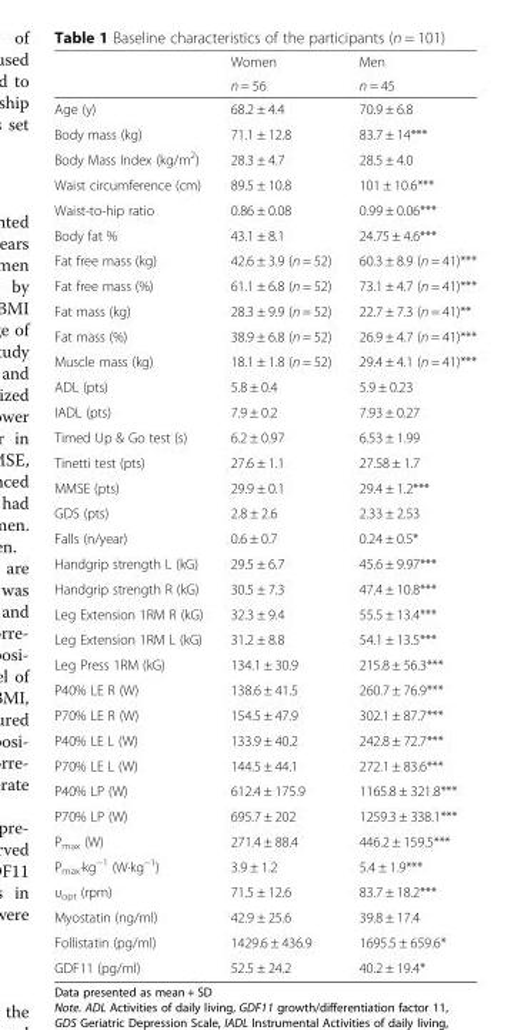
<table><thead><tr><td rowspan="2"></td><td rowspan="2">Women n = 56</td><td rowspan="2">Men n = 45</td></tr><tr></tr></thead><tbody><tr><td>Age (y)</td><td>68.2 ± 4.4</td><td>70.9 ± 6.8</td></tr><tr><td>Body mass (kg)</td><td>71.1 ± 12.8</td><td>83.7 ± 14***</td></tr><tr><td>Body Mass Index (kg/m<sup>2</sup>)</td><td>28.3 ± 4.7</td><td>28.5 ± 4.0</td></tr><tr><td>Waist circumference (cm)</td><td>89.5 ± 10.8</td><td>101 ± 10.6***</td></tr><tr><td>Waist-to-hip ratio</td><td>0.86 ± 0.08</td><td>0.99 ± 0.06***</td></tr><tr><td>Body fat %</td><td>43.1 ± 8.1</td><td>24.75 ± 4.6***</td></tr><tr><td>Fat free mass (kg)</td><td>42.6 ± 3.9 (n = 52)</td><td>60.3 ± 8.9 (n = 41)***</td></tr><tr><td>Fat free mass (%)</td><td>61.1 ± 6.8 (n = 52)</td><td>73.1 ± 4.7 (n = 41)***</td></tr><tr><td>Fat mass (kg)</td><td>28.3 ± 9.9 (n = 52)</td><td>22.7 ± 7.3 (n = 41)**</td></tr><tr><td>Fat mass (%)</td><td>38.9 ± 6.8 (n = 52)</td><td>26.9 ± 4.7 (n = 41)***</td></tr><tr><td>Muscle mass (kg)</td><td>18.1 ± 1.8 (n = 52)</td><td>29.4 ± 4.1 (n = 41)***</td></tr><tr><td>ADL (pts)</td><td>5.8 ± 0.4</td><td>5.9 ± 0.23</td></tr><tr><td>IADL (pts)</td><td>7.9 ± 0.2</td><td>7.93 ± 0.27</td></tr><tr><td>Timed Up &amp; Go test (s)</td><td>6.2 ± 0.97</td><td>6.53 ± 1.99</td></tr><tr><td>Tinetti test (pts)</td><td>27.6 ± 1.1</td><td>27.58 ± 1.7</td></tr><tr><td>MMSE (pts)</td><td>29.9 ± 0.1</td><td>29.4 ± 1.2***</td></tr><tr><td>GDS (pts)</td><td>2.8 ± 2.6</td><td>2.33 ± 2.53</td></tr><tr><td>Falls (n/year)</td><td>0.6 ± 0.7</td><td>0.24 ± 0.5*</td></tr><tr><td>Handgrip strength L (kG)</td><td>29.5 ± 6.7</td><td>45.6 ± 9.97***</td></tr><tr><td>Handgrip strength R (kG)</td><td>30.5 ± 7.3</td><td>47.4 ± 10.8***</td></tr><tr><td>Leg Extension 1RM R (kG)</td><td>32.3 ± 9.4</td><td>55.5 ± 13.4***</td></tr><tr><td>Leg Extension 1RM L (kG)</td><td>31.2 ± 8.8</td><td>54.1 ± 13.5***</td></tr><tr><td>Leg Press 1RM (kG)</td><td>134.1 ± 30.9</td><td>215.8 ± 56.3***</td></tr><tr><td>P40% LE R (W)</td><td>138.6 ± 41.5</td><td>260.7 ± 76.9***</td></tr><tr><td>P70% LE R (W)</td><td>154.5 ± 47.9</td><td>302.1 ± 87.7***</td></tr><tr><td>P40% LE L (W)</td><td>133.9 ± 40.2</td><td>242.8 ± 72.7***</td></tr><tr><td>P70% LE L (W)</td><td>144.5 ± 44.1</td><td>272.1 ± 83.6***</td></tr><tr><td>P40% LP (W)</td><td>612.4 ± 175.9</td><td>1165.8 ± 321.8***</td></tr><tr><td>P70% LP (W)</td><td>695.7 ± 202</td><td>1259.3 ± 338.1***</td></tr><tr><td>P<sub>max</sub> (W)</td><td>271.4 ± 88.4</td><td>446.2 ± 159.5***</td></tr><tr><td>P<sub>max</sub>·kg<sup>−1</sup> (W·kg<sup>−1</sup>)</td><td>3.9 ± 1.2</td><td>5.4 ± 1.9***</td></tr><tr><td>υ<sub>opt</sub> (rpm)</td><td>71.5 ± 12.6</td><td>83.7 ± 18.2***</td></tr><tr><td>Myostatin (ng/ml)</td><td>42.9 ± 25.6</td><td>39.8 ± 17.4</td></tr><tr><td>Follistatin (pg/ml)</td><td>1429.6 ± 436.9</td><td>1695.5 ± 659.6*</td></tr><tr><td>GDF11 (pg/ml)</td><td>52.5 ± 24.2</td><td>40.2 ± 19.4*</td></tr></tbody></table>